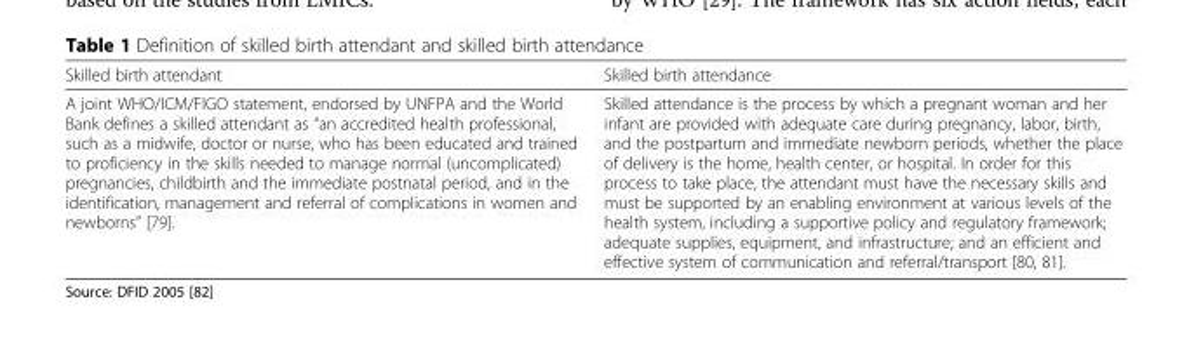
<table><thead><tr><td>Skilled birth attendant</td><td>Skilled birth attendance</td></tr></thead><tbody><tr><td>A joint WHO/ICM/FIGO statement, endorsed by UNFPA and the World Bank defines a skilled attendant as “an accredited health professional, such as a midwife, doctor or nurse, who has been educated and trained to proficiency in the skills needed to manage normal (uncomplicated) pregnancies, childbirth and the immediate postnatal period, and in the identification, management and referral of complications in women and newborns” [79].</td><td>Skilled attendance is the process by which a pregnant woman and her infant are provided with adequate care during pregnancy, labor, birth, and the postpartum and immediate newborn periods, whether the place of delivery is the home, health center, or hospital. In order for this process to take place, the attendant must have the necessary skills and must be supported by an enabling environment at various levels of the health system, including a supportive policy and regulatory framework; adequate supplies, equipment, and infrastructure; and an efficient and effective system of communication and referral/transport [80, 81].</td></tr></tbody></table>